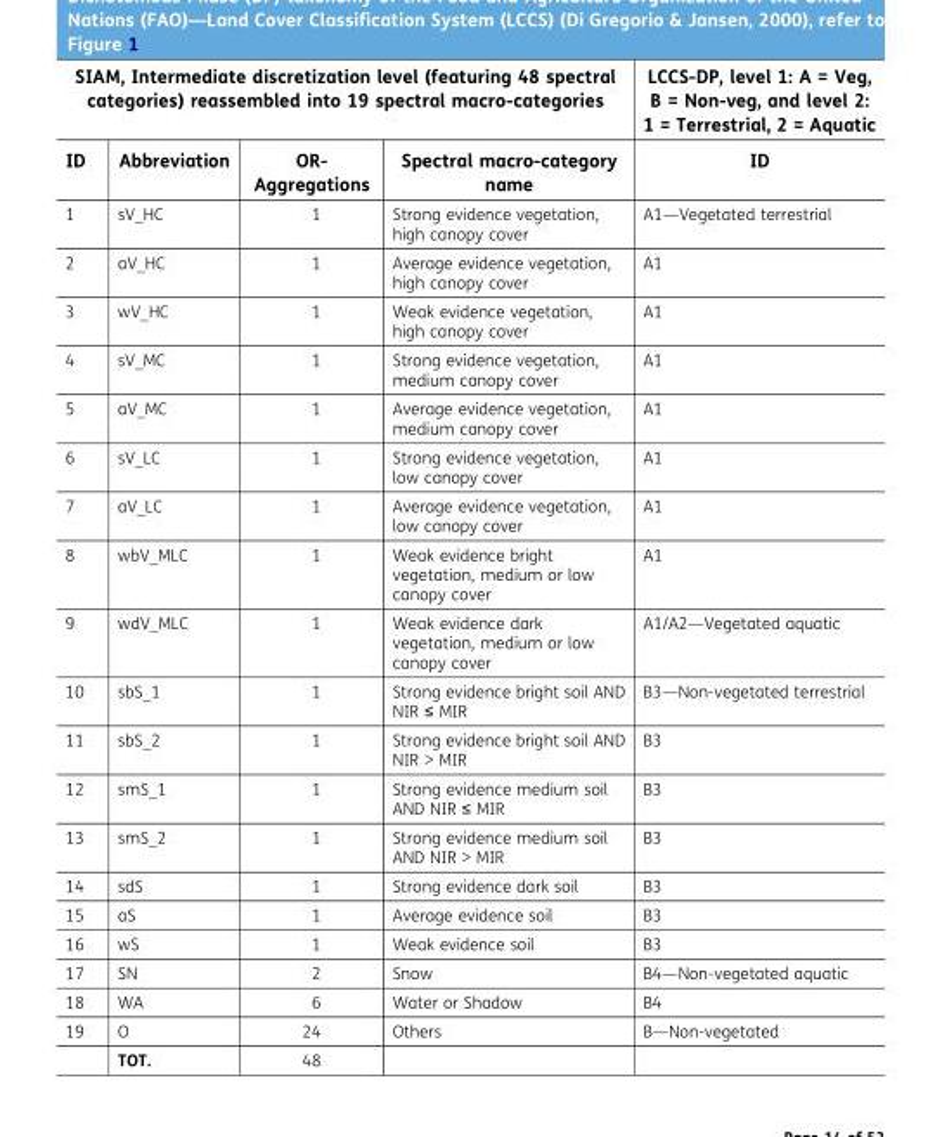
<table><thead><tr><td colspan="4">SIAM, Intermediate discretization level (featuring 48 spectral categories) reassembled into 19 spectral macro-categories</td><td rowspan="2">LCCS-DP, level 1: A = Veg, B = Non-veg, and level 2: 1 = Terrestrial, 2 = Aquatic ID</td></tr><tr><td>ID</td><td>Abbreviation</td><td>OR- Aggregations</td><td>Spectral macro-category name</td></tr></thead><tbody><tr><td>1</td><td>sV_HC</td><td>1</td><td>Strong evidence vegetation, high canopy cover</td><td>A1—Vegetated terrestrial</td></tr><tr><td>2</td><td>aV_HC</td><td>1</td><td>Average evidence vegetation, high canopy cover</td><td>A1</td></tr><tr><td>3</td><td>wV_HC</td><td>1</td><td>Weak evidence vegetation, high canopy cover</td><td>A1</td></tr><tr><td>4</td><td>sV_MC</td><td>1</td><td>Strong evidence vegetation, medium canopy cover</td><td>A1</td></tr><tr><td>5</td><td>aV_MC</td><td>1</td><td>Average evidence vegetation, medium canopy cover</td><td>A1</td></tr><tr><td>6</td><td>sV_LC</td><td>1</td><td>Strong evidence vegetation, low canopy cover</td><td>A1</td></tr><tr><td>7</td><td>aV_LC</td><td>1</td><td>Average evidence vegetation, low canopy cover</td><td>A1</td></tr><tr><td>8</td><td>wbV_MLC</td><td>1</td><td>Weak evidence bright vegetation, medium or low canopy cover</td><td>A1</td></tr><tr><td>9</td><td>wdV_MLC</td><td>1</td><td>Weak evidence dark vegetation, medium or low canopy cover</td><td>A1/A2—Vegetated aquatic</td></tr><tr><td>10</td><td>sbS_1</td><td>1</td><td>Strong evidence bright soil AND NIR ≤ MIR</td><td>B3—Non-vegetated terrestrial</td></tr><tr><td>11</td><td>sbS_2</td><td>1</td><td>Strong evidence bright soil AND NIR &gt; MIR</td><td>B3</td></tr><tr><td>12</td><td>smS_1</td><td>1</td><td>Strong evidence medium soil AND NIR ≤ MIR</td><td>B3</td></tr><tr><td>13</td><td>smS_2</td><td>1</td><td>Strong evidence medium soil AND NIR &gt; MIR</td><td>B3</td></tr><tr><td>14</td><td>sdS</td><td>1</td><td>Strong evidence dark soil</td><td>B3</td></tr><tr><td>15</td><td>aS</td><td>1</td><td>Average evidence soil</td><td>B3</td></tr><tr><td>16</td><td>wS</td><td>1</td><td>Weak evidence soil</td><td>B3</td></tr><tr><td>17</td><td>SN</td><td>2</td><td>Snow</td><td>B4—Non-vegetated aquatic</td></tr><tr><td>18</td><td>WA</td><td>6</td><td>Water or Shadow</td><td>B4</td></tr><tr><td rowspan="2">19</td><td>O</td><td>24</td><td>Others</td><td>B—Non-vegetated</td></tr><tr><td>TOT.</td><td>48</td><td></td><td></td></tr></tbody></table>